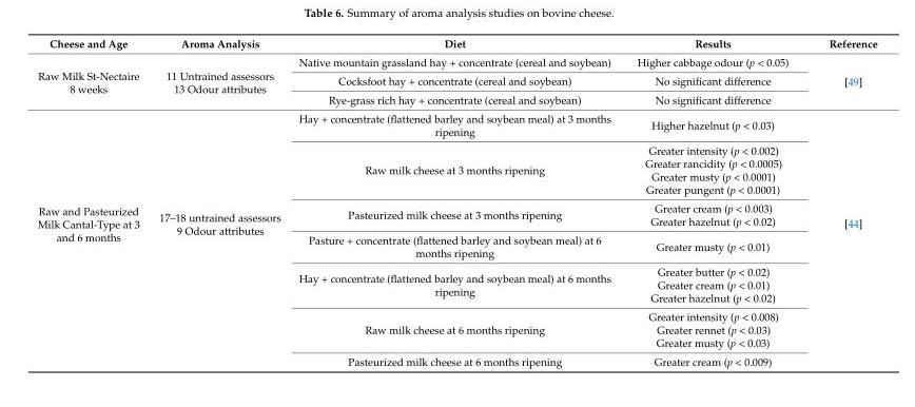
<table><thead><tr><td>Cheese and Age</td><td>Aroma Analysis</td><td>Diet</td><td>Results</td><td>Reference</td></tr></thead><tbody><tr><td rowspan="3">Raw Milk St-Nectaire 8 weeks</td><td rowspan="3">11 Untrained assessors 13 Odour attributes</td><td>Native mountain grassland hay + concentrate (cereal and soybean)</td><td>Higher cabbage odour (p &lt; 0.05)</td><td rowspan="3">[49]</td></tr><tr><td>Cocksfoot hay + concentrate (cereal and soybean)</td><td>No significant difference</td></tr><tr><td>Rye-grass rich hay + concentrate (cereal and soybean)</td><td>No significant difference</td></tr><tr><td rowspan="7">Raw and Pasteurized Milk Cantal-Type at 3 and 6 months</td><td rowspan="7">17–18 untrained assessors 9 Odour attributes</td><td>Hay + concentrate (flattened barley and soybean meal) at 3 months ripening</td><td>Higher hazelnut (p &lt; 0.03)</td><td rowspan="7">[44]</td></tr><tr><td>Raw milk cheese at 3 months ripening</td><td>Greater intensity (p &lt; 0.002) Greater rancidity (p &lt; 0.0005) Greater musty (p &lt; 0.0001) Greater pungent (p &lt; 0.0001)</td></tr><tr><td>Pasteurized milk cheese at 3 months ripening</td><td>Greater cream (p &lt; 0.003) Greater hazelnut (p &lt; 0.02)</td></tr><tr><td>Pasture + concentrate (flattened barley and soybean meal) at 6 months ripening</td><td>Greater musty (p &lt; 0.01)</td></tr><tr><td>Hay + concentrate (flattened barley and soybean meal) at 6 months ripening</td><td>Greater butter (p &lt; 0.02) Greater cream (p &lt; 0.01) Greater hazelnut (p &lt; 0.02)</td></tr><tr><td>Raw milk cheese at 6 months ripening</td><td>Greater intensity (p &lt; 0.008) Greater rennet (p &lt; 0.03) Greater musty (p &lt; 0.03)</td></tr><tr><td>Pasteurized milk cheese at 6 months ripening</td><td>Greater cream (p &lt; 0.009)</td></tr></tbody></table>